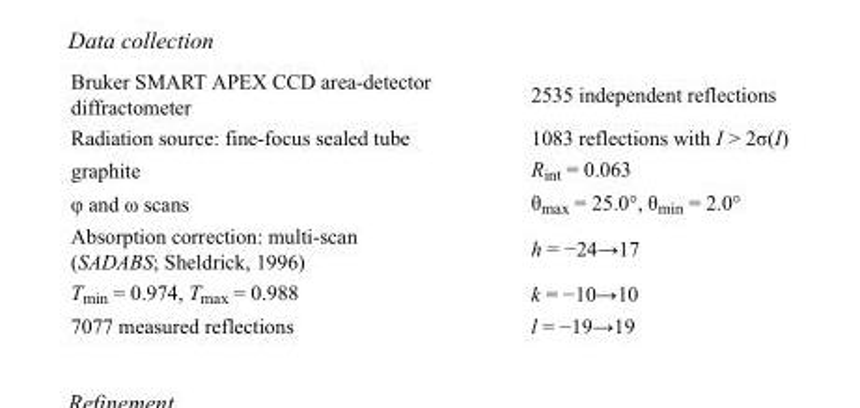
<table><tbody><tr><td>Bruker SMART APEX CCD area-detector diffractometer</td><td>2535 independent reflections</td></tr><tr><td>Radiation source: fine-focus sealed tube</td><td>1083 reflections with I &gt; 2σ(I)</td></tr><tr><td>graphite</td><td>R<sub>int</sub> = 0.063</td></tr><tr><td>φ and ω scans</td><td>θ<sub>max</sub> = 25.0°, θ<sub>min</sub> = 2.0°</td></tr><tr><td>Absorption correction: multi-scan (SADABS; Sheldrick, 1996)</td><td>h = −24→17</td></tr><tr><td>T<sub>min</sub> = 0.974, T<sub>max</sub> = 0.988</td><td>k = −10→10</td></tr><tr><td>7077 measured reflections</td><td>l = −19→19</td></tr></tbody></table>